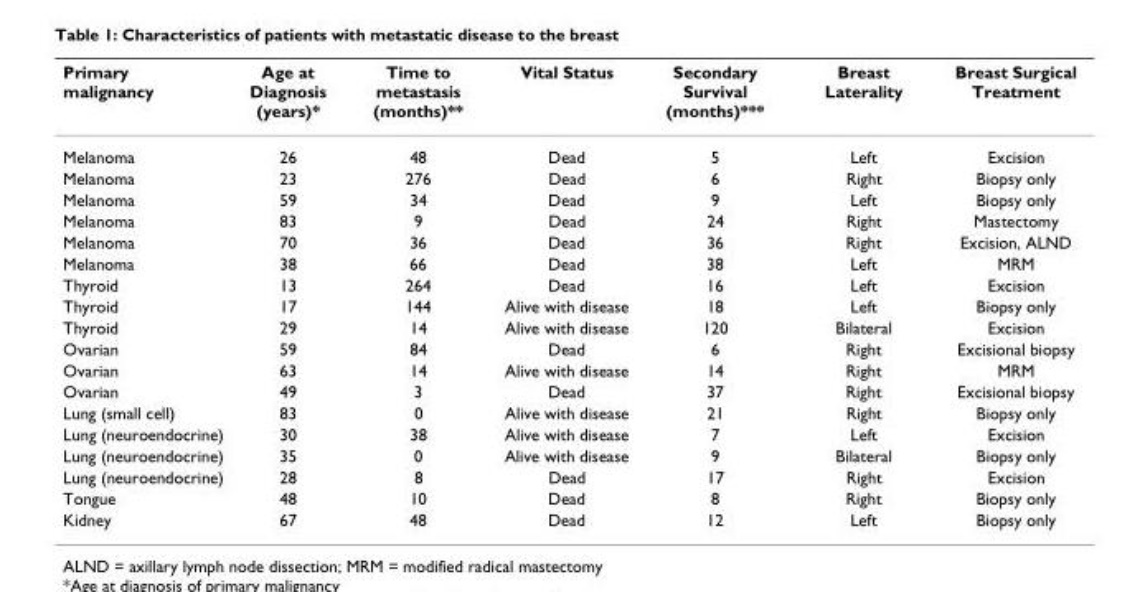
<table><thead><tr><td>Primary malignancy</td><td>Age at Diagnosis (years)*</td><td>Time to metastasis (months)**</td><td>Vital Status</td><td>Secondary Survival (months)***</td><td>Breast Laterality</td><td>Breast Surgical Treatment</td></tr></thead><tbody><tr><td>Melanoma</td><td>26</td><td>48</td><td>Dead</td><td>5</td><td>Left</td><td>Excision</td></tr><tr><td>Melanoma</td><td>23</td><td>276</td><td>Dead</td><td>6</td><td>Right</td><td>Biopsy only</td></tr><tr><td>Melanoma</td><td>59</td><td>34</td><td>Dead</td><td>9</td><td>Left</td><td>Biopsy only</td></tr><tr><td>Melanoma</td><td>83</td><td>9</td><td>Dead</td><td>24</td><td>Right</td><td>Mastectomy</td></tr><tr><td>Melanoma</td><td>70</td><td>36</td><td>Dead</td><td>36</td><td>Right</td><td>Excision, ALND</td></tr><tr><td>Melanoma</td><td>38</td><td>66</td><td>Dead</td><td>38</td><td>Left</td><td>MRM</td></tr><tr><td>Thyroid</td><td>13</td><td>264</td><td>Dead</td><td>16</td><td>Left</td><td>Excision</td></tr><tr><td>Thyroid</td><td>17</td><td>144</td><td>Alive with disease</td><td>18</td><td>Left</td><td>Biopsy only</td></tr><tr><td>Thyroid</td><td>29</td><td>14</td><td>Alive with disease</td><td>120</td><td>Bilateral</td><td>Excision</td></tr><tr><td>Ovarian</td><td>59</td><td>84</td><td>Dead</td><td>6</td><td>Right</td><td>Excisional biopsy</td></tr><tr><td>Ovarian</td><td>63</td><td>14</td><td>Alive with disease</td><td>14</td><td>Right</td><td>MRM</td></tr><tr><td>Ovarian</td><td>49</td><td>3</td><td>Dead</td><td>37</td><td>Right</td><td>Excisional biopsy</td></tr><tr><td>Lung (small cell)</td><td>83</td><td>0</td><td>Alive with disease</td><td>21</td><td>Right</td><td>Biopsy only</td></tr><tr><td>Lung (neuroendocrine)</td><td>30</td><td>38</td><td>Alive with disease</td><td>7</td><td>Left</td><td>Excision</td></tr><tr><td>Lung (neuroendocrine)</td><td>35</td><td>0</td><td>Alive with disease</td><td>9</td><td>Bilateral</td><td>Biopsy only</td></tr><tr><td>Lung (neuroendocrine)</td><td>28</td><td>8</td><td>Dead</td><td>17</td><td>Right</td><td>Excision</td></tr><tr><td>Tongue</td><td>48</td><td>10</td><td>Dead</td><td>8</td><td>Right</td><td>Biopsy only</td></tr><tr><td>Kidney</td><td>67</td><td>48</td><td>Dead</td><td>12</td><td>Left</td><td>Biopsy only</td></tr></tbody></table>